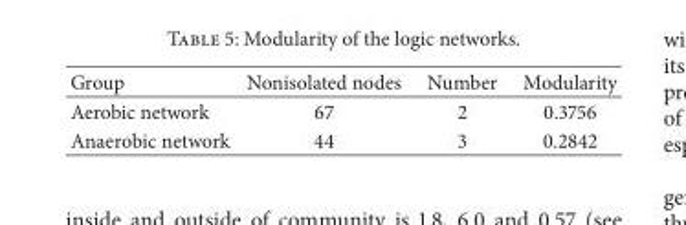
<table><thead><tr><td>Group</td><td>Nonisolated nodes</td><td>Number</td><td>Modularity</td></tr></thead><tbody><tr><td>Aerobic network</td><td>67</td><td>2</td><td>0.3756</td></tr><tr><td>Anaerobic network</td><td>44</td><td>3</td><td>0.2842</td></tr></tbody></table>